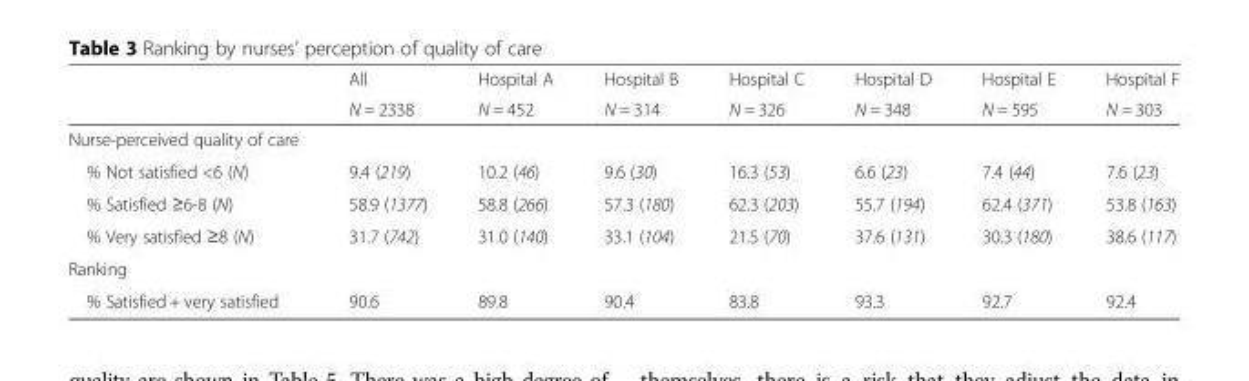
<table><thead><tr><td rowspan="2"></td><td rowspan="2">All N = 2338</td><td rowspan="2">Hospital A N = 452</td><td rowspan="2">Hospital B N = 314</td><td rowspan="2">Hospital C N = 326</td><td rowspan="2">Hospital D N = 348</td><td rowspan="2">Hospital E N = 595</td><td rowspan="2">Hospital F N = 303</td></tr><tr></tr></thead><tbody><tr><td colspan="8">Nurse-perceived quality of care</td></tr><tr><td>% Not satisfied &lt;6 (N)</td><td>9.4 (219)</td><td>10.2 (46)</td><td>9.6 (30)</td><td>16.3 (53)</td><td>6.6 (23)</td><td>7.4 (44)</td><td>7.6 (23)</td></tr><tr><td>% Satisfied ≥6-8 (N)</td><td>58.9 (1377)</td><td>58.8 (266)</td><td>57.3 (180)</td><td>62.3 (203)</td><td>55.7 (194)</td><td>62.4 (371)</td><td>53.8 (163)</td></tr><tr><td>% Very satisfied ≥8 (N)</td><td>31.7 (742)</td><td>31.0 (140)</td><td>33.1 (104)</td><td>21.5 (70)</td><td>37.6 (131)</td><td>30.3 (180)</td><td>38.6 (117)</td></tr><tr><td colspan="8">Ranking</td></tr><tr><td>% Satisfied + very satisfied</td><td>90.6</td><td>89.8</td><td>90.4</td><td>83.8</td><td>93.3</td><td>92.7</td><td>92.4</td></tr></tbody></table>